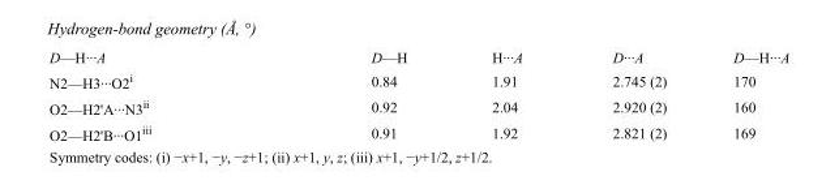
<table><tbody><tr><td>D—H···A</td><td>D—H</td><td>H···A</td><td>D···A</td><td>D—H···A</td></tr><tr><td>N2—H3···O2<sup>i</sup></td><td>0.84</td><td>1.91</td><td>2.745 (2)</td><td>170</td></tr><tr><td>O2—H2&#x27;A···N3<sup>ii</sup></td><td>0.92</td><td>2.04</td><td>2.920 (2)</td><td>160</td></tr><tr><td>O2—H2&#x27;B···O1<sup>iii</sup></td><td>0.91</td><td>1.92</td><td>2.821 (2)</td><td>169</td></tr></tbody></table>